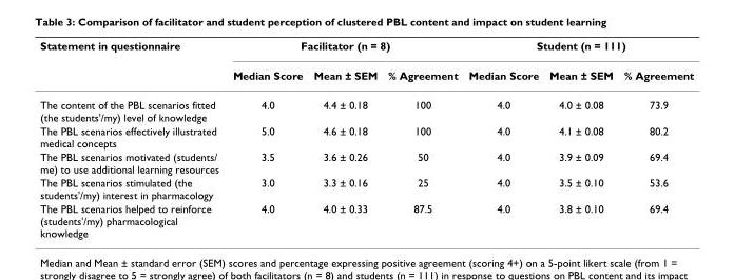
<table><thead><tr><td rowspan="2">Statement in questionnaire</td><td colspan="3">Facilitator (n = 8)</td><td colspan="3">Student (n = 111)</td></tr><tr><td>Median Score</td><td>Mean ± SEM</td><td>% Agreement</td><td>Median Score</td><td>Mean ± SEM</td><td>% Agreement</td></tr></thead><tbody><tr><td>The content of the PBL scenarios fitted (the students&#x27;/my) level of knowledge</td><td>4.0</td><td>4.4 ± 0.18</td><td>100</td><td>4.0</td><td>4.0 ± 0.08</td><td>73.9</td></tr><tr><td>The PBL scenarios effectively illustrated medical concepts</td><td>5.0</td><td>4.6 ± 0.18</td><td>100</td><td>4.0</td><td>4.1 ± 0.08</td><td>80.2</td></tr><tr><td>The PBL scenarios motivated (students/ me) to use additional learning resources</td><td>3.5</td><td>3.6 ± 0.26</td><td>50</td><td>4.0</td><td>3.9 ± 0.09</td><td>69.4</td></tr><tr><td>The PBL scenarios stimulated (the students&#x27;/my) interest in pharmacology</td><td>3.0</td><td>3.3 ± 0.16</td><td>25</td><td>4.0</td><td>3.5 ± 0.10</td><td>53.6</td></tr><tr><td>The PBL scenarios helped to reinforce (students&#x27;/my) pharmacological knowledge</td><td>4.0</td><td>4.0 ± 0.33</td><td>87.5</td><td>4.0</td><td>3.8 ± 0.10</td><td>69.4</td></tr></tbody></table>